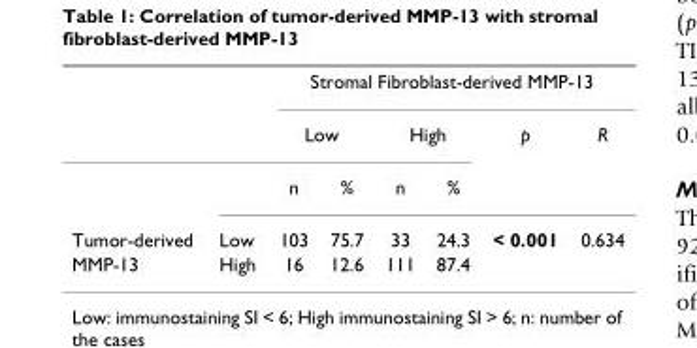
<table><thead><tr><td rowspan="3"></td><td rowspan="3"></td><td colspan="6">Stromal Fibroblast-derived MMP-13</td></tr><tr><td colspan="2">Low</td><td colspan="2">High</td><td rowspan="2">p</td><td rowspan="2">R</td></tr><tr><td>n</td><td>%</td><td>n</td><td>%</td></tr></thead><tbody><tr><td>Tumor-derived</td><td>Low</td><td>103</td><td>75.7</td><td>33</td><td>24.3</td><td>&lt; 0.001</td><td>0.634</td></tr><tr><td>MMP-13</td><td>High</td><td>16</td><td>12.6</td><td>111</td><td>87.4</td><td></td><td></td></tr></tbody></table>